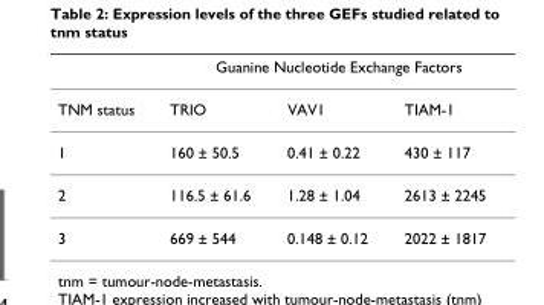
<table><thead><tr><td rowspan="2">TNM status</td><td colspan="3">Guanine Nucleotide Exchange Factors</td></tr><tr><td>TRIO</td><td>VAV1</td><td>TIAM-1</td></tr></thead><tbody><tr><td>1</td><td>160 ± 50.5</td><td>0.41 ± 0.22</td><td>430 ± 117</td></tr><tr><td>2</td><td>116.5 ± 61.6</td><td>1.28 ± 1.04</td><td>2613 ± 2245</td></tr><tr><td>3</td><td>669 ± 544</td><td>0.148 ± 0.12</td><td>2022 ± 1817</td></tr></tbody></table>